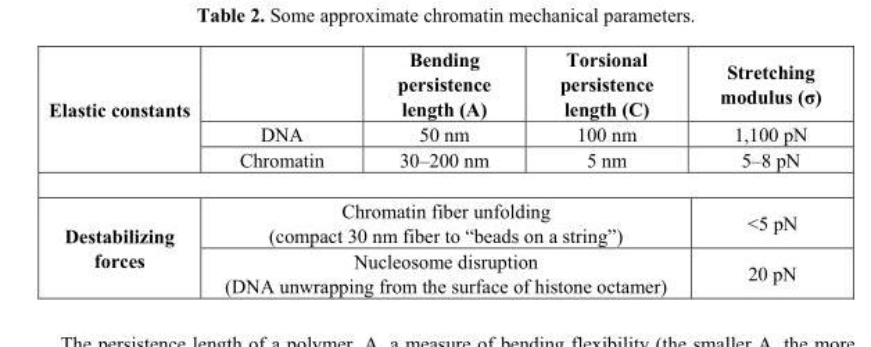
<table><tbody><tr><td rowspan="3">Elastic constants</td><td></td><td>Bending persistence length (A)</td><td>Torsional persistence length (C)</td><td>Stretching modulus (σ)</td></tr><tr><td>DNA</td><td>50 nm</td><td>100 nm</td><td>1,100 pN</td></tr><tr><td>Chromatin</td><td>30–200 nm</td><td>5 nm</td><td>5–8 pN</td></tr><tr><td rowspan="2">Destabilizing forces</td><td colspan="3">Chromatin fiber unfolding (compact 30 nm fiber to “beads on a string”)</td><td>&lt;5 pN</td></tr><tr><td colspan="3">Nucleosome disruption (DNA unwrapping from the surface of histone octamer)</td><td>20 pN</td></tr></tbody></table>